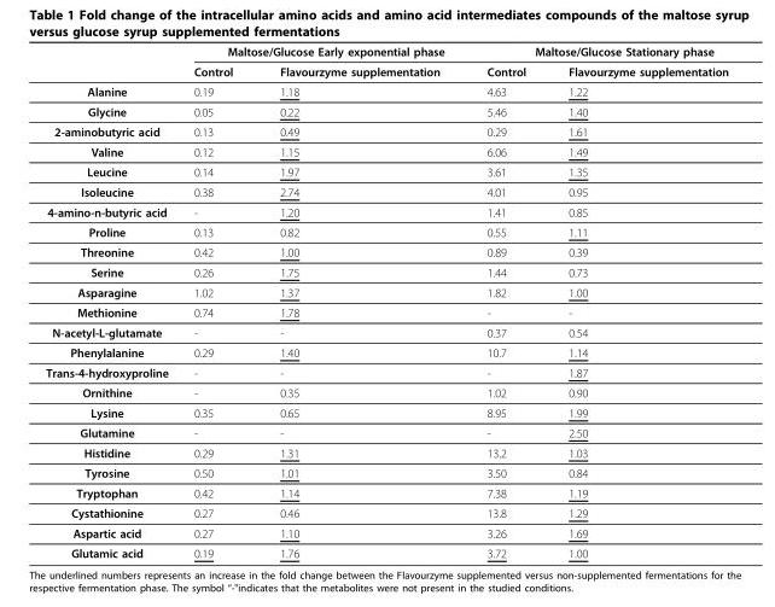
<table><thead><tr><td rowspan="2"></td><td colspan="2">Maltose/Glucose Early exponential phase</td><td colspan="2">Maltose/Glucose Stationary phase</td></tr><tr><td>Control</td><td>Flavourzyme supplementation</td><td>Control</td><td>Flavourzyme supplementation</td></tr></thead><tbody><tr><td>Alanine</td><td>0.19</td><td>1.18</td><td>4.63</td><td>1.22</td></tr><tr><td>Glycine</td><td>0.05</td><td>0.22</td><td>5.46</td><td>1.40</td></tr><tr><td>2-aminobutyric acid</td><td>0.13</td><td>0.49</td><td>0.29</td><td>1.61</td></tr><tr><td>Valine</td><td>0.12</td><td>1.15</td><td>6.06</td><td>1.49</td></tr><tr><td>Leucine</td><td>0.14</td><td>1.97</td><td>3.61</td><td>1.35</td></tr><tr><td>Isoleucine</td><td>0.38</td><td>2.74</td><td>4.01</td><td>0.95</td></tr><tr><td>4-amino-n-butyric acid</td><td>-</td><td>1.20</td><td>1.41</td><td>0.85</td></tr><tr><td>Proline</td><td>0.13</td><td>0.82</td><td>0.55</td><td>1.11</td></tr><tr><td>Threonine</td><td>0.42</td><td>1.00</td><td>0.89</td><td>0.39</td></tr><tr><td>Serine</td><td>0.26</td><td>1.75</td><td>1.44</td><td>0.73</td></tr><tr><td>Asparagine</td><td>1.02</td><td>1.37</td><td>1.82</td><td>1.00</td></tr><tr><td>Methionine</td><td>0.74</td><td>1.78</td><td>-</td><td>-</td></tr><tr><td>N-acetyl-L-glutamate</td><td>-</td><td>-</td><td>0.37</td><td>0.54</td></tr><tr><td>Phenylalanine</td><td>0.29</td><td>1.40</td><td>10.7</td><td>1.14</td></tr><tr><td>Trans-4-hydroxyproline</td><td>-</td><td>-</td><td>-</td><td>1.87</td></tr><tr><td>Ornithine</td><td>-</td><td>0.35</td><td>1.02</td><td>0.90</td></tr><tr><td>Lysine</td><td>0.35</td><td>0.65</td><td>8.95</td><td>1.99</td></tr><tr><td>Glutamine</td><td>-</td><td>-</td><td>-</td><td>2.50</td></tr><tr><td>Histidine</td><td>0.29</td><td>1.31</td><td>13.2</td><td>1.03</td></tr><tr><td>Tyrosine</td><td>0.50</td><td>1.01</td><td>3.50</td><td>0.84</td></tr><tr><td>Tryptophan</td><td>0.42</td><td>1.14</td><td>7.38</td><td>1.19</td></tr><tr><td>Cystathionine</td><td>0.27</td><td>0.46</td><td>13.8</td><td>1.29</td></tr><tr><td>Aspartic acid</td><td>0.27</td><td>1.10</td><td>3.26</td><td>1.69</td></tr><tr><td>Glutamic acid</td><td>0.19</td><td>1.76</td><td>3.72</td><td>1.00</td></tr></tbody></table>